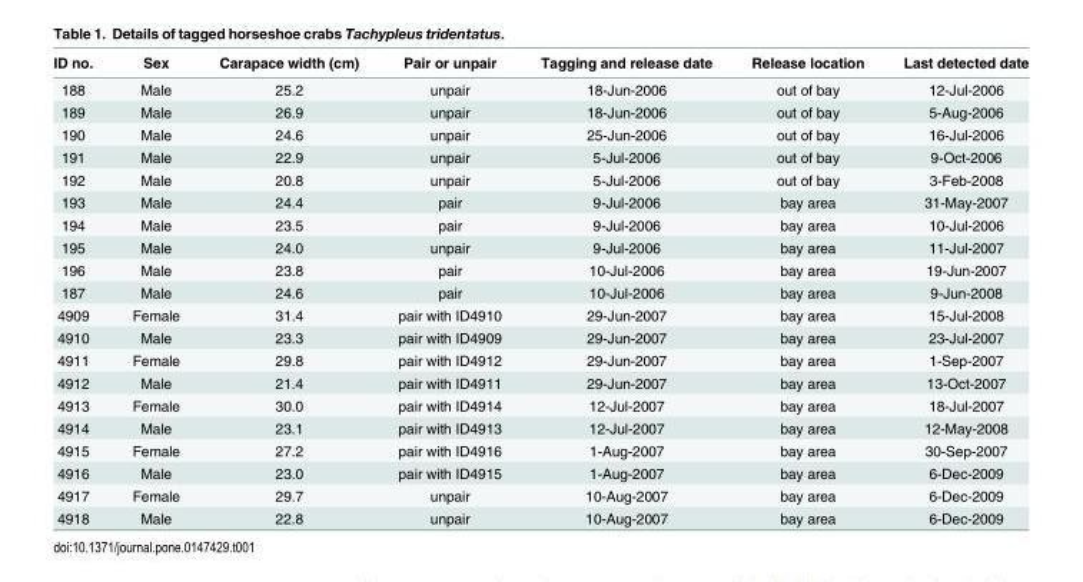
<table><thead><tr><td>ID no.</td><td>Sex</td><td>Carapace width (cm)</td><td>Pair or unpair</td><td>Tagging and release date</td><td>Release location</td><td>Last detected date</td></tr></thead><tbody><tr><td>188</td><td>Male</td><td>25.2</td><td>unpair</td><td>18-Jun-2006</td><td>out of bay</td><td>12-Jul-2006</td></tr><tr><td>189</td><td>Male</td><td>26.9</td><td>unpair</td><td>18-Jun-2006</td><td>out of bay</td><td>5-Aug-2006</td></tr><tr><td>190</td><td>Male</td><td>24.6</td><td>unpair</td><td>25-Jun-2006</td><td>out of bay</td><td>16-Jul-2006</td></tr><tr><td>191</td><td>Male</td><td>22.9</td><td>unpair</td><td>5-Jul-2006</td><td>out of bay</td><td>9-Oct-2006</td></tr><tr><td>192</td><td>Male</td><td>20.8</td><td>unpair</td><td>5-Jul-2006</td><td>out of bay</td><td>3-Feb-2008</td></tr><tr><td>193</td><td>Male</td><td>24.4</td><td>pair</td><td>9-Jul-2006</td><td>bay area</td><td>31-May-2007</td></tr><tr><td>194</td><td>Male</td><td>23.5</td><td>pair</td><td>9-Jul-2006</td><td>bay area</td><td>10-Jul-2006</td></tr><tr><td>195</td><td>Male</td><td>24.0</td><td>unpair</td><td>9-Jul-2006</td><td>bay area</td><td>11-Jul-2007</td></tr><tr><td>196</td><td>Male</td><td>23.8</td><td>pair</td><td>10-Jul-2006</td><td>bay area</td><td>19-Jun-2007</td></tr><tr><td>187</td><td>Male</td><td>24.6</td><td>pair</td><td>10-Jul-2006</td><td>bay area</td><td>9-Jun-2008</td></tr><tr><td>4909</td><td>Female</td><td>31.4</td><td>pair with ID4910</td><td>29-Jun-2007</td><td>bay area</td><td>15-Jul-2008</td></tr><tr><td>4910</td><td>Male</td><td>23.3</td><td>pair with ID4909</td><td>29-Jun-2007</td><td>bay area</td><td>23-Jul-2007</td></tr><tr><td>4911</td><td>Female</td><td>29.8</td><td>pair with ID4912</td><td>29-Jun-2007</td><td>bay area</td><td>1-Sep-2007</td></tr><tr><td>4912</td><td>Male</td><td>21.4</td><td>pair with ID4911</td><td>29-Jun-2007</td><td>bay area</td><td>13-Oct-2007</td></tr><tr><td>4913</td><td>Female</td><td>30.0</td><td>pair with ID4914</td><td>12-Jul-2007</td><td>bay area</td><td>18-Jul-2007</td></tr><tr><td>4914</td><td>Male</td><td>23.1</td><td>pair with ID4913</td><td>12-Jul-2007</td><td>bay area</td><td>12-May-2008</td></tr><tr><td>4915</td><td>Female</td><td>27.2</td><td>pair with ID4916</td><td>1-Aug-2007</td><td>bay area</td><td>30-Sep-2007</td></tr><tr><td>4916</td><td>Male</td><td>23.0</td><td>pair with ID4915</td><td>1-Aug-2007</td><td>bay area</td><td>6-Dec-2009</td></tr><tr><td>4917</td><td>Female</td><td>29.7</td><td>unpair</td><td>10-Aug-2007</td><td>bay area</td><td>6-Dec-2009</td></tr><tr><td>4918</td><td>Male</td><td>22.8</td><td>unpair</td><td>10-Aug-2007</td><td>bay area</td><td>6-Dec-2009</td></tr></tbody></table>